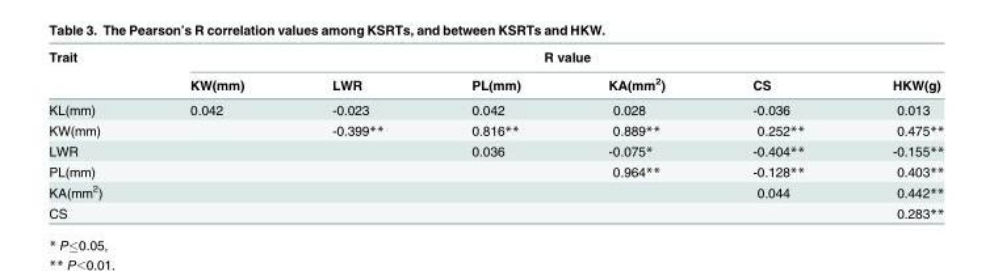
<table><thead><tr><td rowspan="2">Trait</td><td colspan="6">R value</td></tr><tr><td>KW(mm)</td><td>LWR</td><td>PL(mm)</td><td>KA(mm<sup>2</sup>)</td><td>CS</td><td>HKW(g)</td></tr></thead><tbody><tr><td>KL(mm)</td><td>0.042</td><td>-0.023</td><td>0.042</td><td>0.028</td><td>-0.036</td><td>0.013</td></tr><tr><td>KW(mm)</td><td></td><td>-0.399**</td><td>0.816**</td><td>0.889**</td><td>0.252**</td><td>0.475**</td></tr><tr><td>LWR</td><td></td><td></td><td>0.036</td><td>-0.075*</td><td>-0.404**</td><td>-0.155**</td></tr><tr><td>PL(mm)</td><td></td><td></td><td></td><td>0.964**</td><td>-0.128**</td><td>0.403**</td></tr><tr><td>KA(mm<sup>2</sup>)</td><td></td><td></td><td></td><td></td><td>0.044</td><td>0.442**</td></tr><tr><td>CS</td><td></td><td></td><td></td><td></td><td></td><td>0.283**</td></tr></tbody></table>